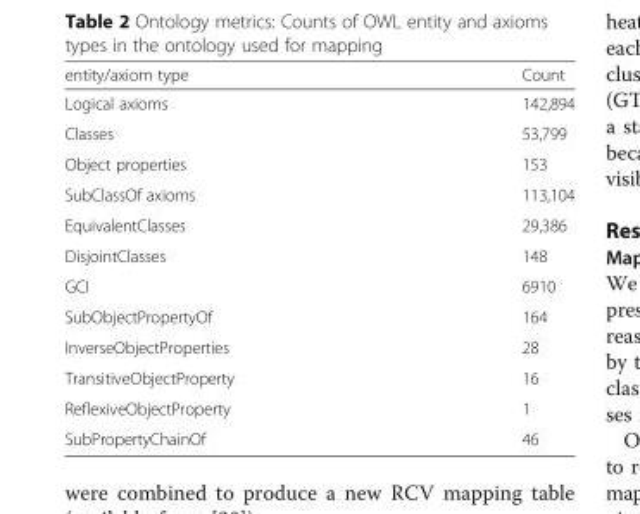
<table><thead><tr><td>entity/axiom type</td><td>Count</td></tr></thead><tbody><tr><td>Logical axioms</td><td>142,894</td></tr><tr><td>Classes</td><td>53,799</td></tr><tr><td>Object properties</td><td>153</td></tr><tr><td>SubClassOf axioms</td><td>113,104</td></tr><tr><td>EquivalentClasses</td><td>29,386</td></tr><tr><td>DisjointClasses</td><td>148</td></tr><tr><td>GCI</td><td>6910</td></tr><tr><td>SubObjectPropertyOf</td><td>164</td></tr><tr><td>InverseObjectProperties</td><td>28</td></tr><tr><td>TransitiveObjectProperty</td><td>16</td></tr><tr><td>ReflexiveObjectProperty</td><td>1</td></tr><tr><td>SubPropertyChainOf</td><td>46</td></tr></tbody></table>